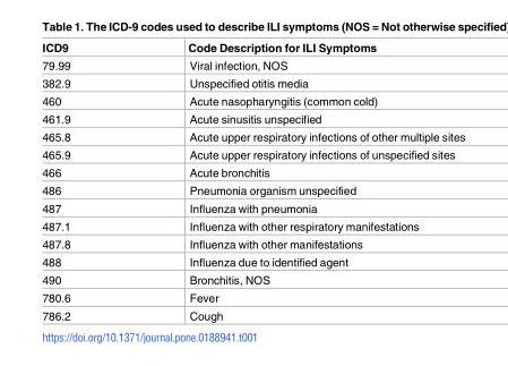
<table><thead><tr><td>ICD9</td><td>Code Description for ILI Symptoms</td></tr></thead><tbody><tr><td>79.99</td><td>Viral infection, NOS</td></tr><tr><td>382.9</td><td>Unspecified otitis media</td></tr><tr><td>460</td><td>Acute nasopharyngitis (common cold)</td></tr><tr><td>461.9</td><td>Acute sinusitis unspecified</td></tr><tr><td>465.8</td><td>Acute upper respiratory infections of other multiple sites</td></tr><tr><td>465.9</td><td>Acute upper respiratory infections of unspecified sites</td></tr><tr><td>466</td><td>Acute bronchitis</td></tr><tr><td>486</td><td>Pneumonia organism unspecified</td></tr><tr><td>487</td><td>Influenza with pneumonia</td></tr><tr><td>487.1</td><td>Influenza with other respiratory manifestations</td></tr><tr><td>487.8</td><td>Influenza with other manifestations</td></tr><tr><td>488</td><td>Influenza due to identified agent</td></tr><tr><td>490</td><td>Bronchitis, NOS</td></tr><tr><td>780.6</td><td>Fever</td></tr><tr><td>786.2</td><td>Cough</td></tr></tbody></table>